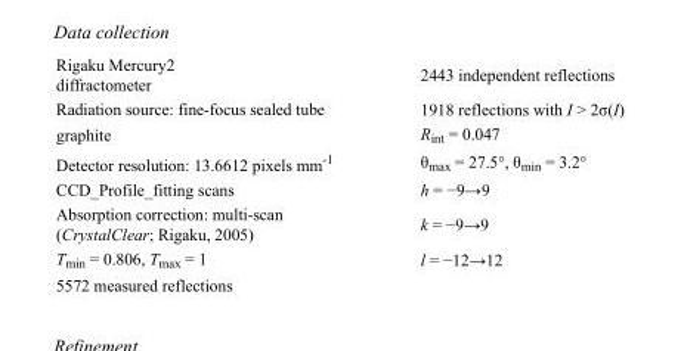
<table><tbody><tr><td>Rigaku Mercury2 diffractometer</td><td>2443 independent reflections</td></tr><tr><td>Radiation source: fine-focus sealed tube</td><td>1918 reflections with I &gt; 2σ(I)</td></tr><tr><td>graphite</td><td>R<sub>int</sub> = 0.047</td></tr><tr><td>Detector resolution: 13.6612 pixels mm<sup>-1</sup></td><td>θ<sub>max</sub> = 27.5°, θ<sub>min</sub> = 3.2°</td></tr><tr><td>CCD_Profile_fitting scans</td><td>h = −9→9</td></tr><tr><td>Absorption correction: multi-scan (CrystalClear; Rigaku, 2005)</td><td>k = −9→9</td></tr><tr><td>T<sub>min</sub> = 0.806, T<sub>max</sub> = 1</td><td>l = −12→12</td></tr><tr><td>5572 measured reflections</td><td></td></tr></tbody></table>